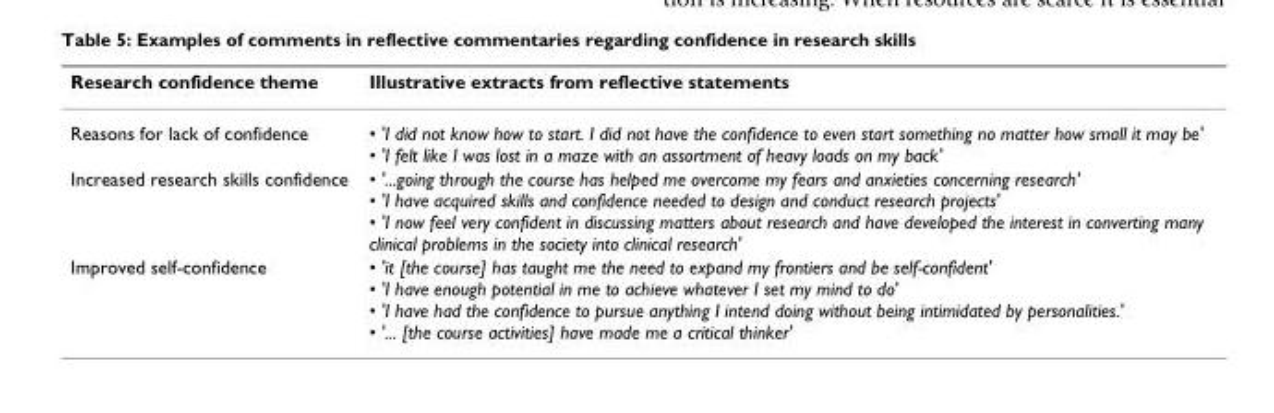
<table><thead><tr><td>Research confidence theme</td><td>Illustrative extracts from reflective statements</td></tr></thead><tbody><tr><td>Reasons for lack of confidence</td><td>• &#x27;I did not know how to start. I did not have the confidence to even start something no matter how small it may be&#x27; • &#x27;I felt like I was lost in a maze with an assortment of heavy loads on my back&#x27;</td></tr><tr><td>Increased research skills confidence</td><td>• &#x27;...going through the course has helped me overcome my fears and anxieties concerning research&#x27; • &#x27;I have acquired skills and confidence needed to design and conduct research projects&#x27; • &#x27;I now feel very confident in discussing matters about research and have developed the interest in converting many clinical problems in the society into clinical research&#x27;</td></tr><tr><td>Improved self-confidence</td><td>• &#x27;it [the course] has taught me the need to expand my frontiers and be self-confident&#x27; • &#x27;I have enough potential in me to achieve whatever I set my mind to do&#x27; • &#x27;I have had the confidence to pursue anything I intend doing without being intimidated by personalities.&#x27; • &#x27;... [the course activities] have made me a critical thinker&#x27;</td></tr></tbody></table>